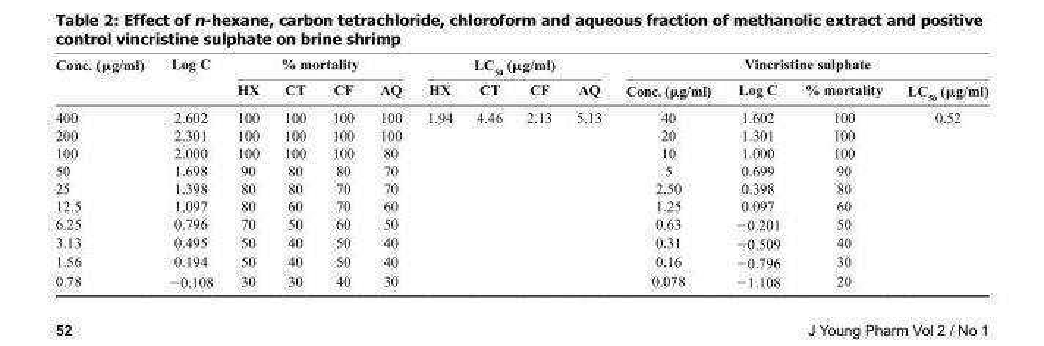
<table><thead><tr><td rowspan="2">Conc. (µg/ml)</td><td rowspan="2">Log C</td><td colspan="4">% mortality</td><td colspan="4">LC<sub>50</sub> (µg/ml)</td><td colspan="4">Vincristine sulphate</td></tr><tr><td>HX</td><td>CT</td><td>CF</td><td>AQ</td><td>HX</td><td>CT</td><td>CF</td><td>AQ</td><td>Conc. (µg/ml)</td><td>Log C</td><td>% mortality</td><td>LC<sub>50</sub> (µg/ml)</td></tr></thead><tbody><tr><td>400</td><td>2.602</td><td>100</td><td>100</td><td>100</td><td>100</td><td>1.94</td><td>4.46</td><td>2.13</td><td>5.13</td><td>40</td><td>1.602</td><td>100</td><td>0.52</td></tr><tr><td>200</td><td>2.301</td><td>100</td><td>100</td><td>100</td><td>100</td><td></td><td></td><td></td><td></td><td>20</td><td>1.301</td><td>100</td><td></td></tr><tr><td>100</td><td>2.000</td><td>100</td><td>100</td><td>100</td><td>80</td><td></td><td></td><td></td><td></td><td>10</td><td>1.000</td><td>100</td><td></td></tr><tr><td>50</td><td>1.698</td><td>90</td><td>80</td><td>80</td><td>70</td><td></td><td></td><td></td><td></td><td>5</td><td>0.699</td><td>90</td><td></td></tr><tr><td>25</td><td>1.398</td><td>80</td><td>80</td><td>70</td><td>70</td><td></td><td></td><td></td><td></td><td>2.50</td><td>0.398</td><td>80</td><td></td></tr><tr><td>12.5</td><td>1.097</td><td>80</td><td>60</td><td>70</td><td>60</td><td></td><td></td><td></td><td></td><td>1.25</td><td>0.097</td><td>60</td><td></td></tr><tr><td>6.25</td><td>0.796</td><td>70</td><td>50</td><td>60</td><td>50</td><td></td><td></td><td></td><td></td><td>0.63</td><td>−0.201</td><td>50</td><td></td></tr><tr><td>3.13</td><td>0.495</td><td>50</td><td>40</td><td>50</td><td>40</td><td></td><td></td><td></td><td></td><td>0.31</td><td>−0.509</td><td>40</td><td></td></tr><tr><td>1.56</td><td>0.194</td><td>50</td><td>40</td><td>50</td><td>40</td><td></td><td></td><td></td><td></td><td>0.16</td><td>−0.796</td><td>30</td><td></td></tr><tr><td>0.78</td><td>−0.108</td><td>30</td><td>30</td><td>40</td><td>30</td><td></td><td></td><td></td><td></td><td>0.078</td><td>−1.108</td><td>20</td><td></td></tr></tbody></table>